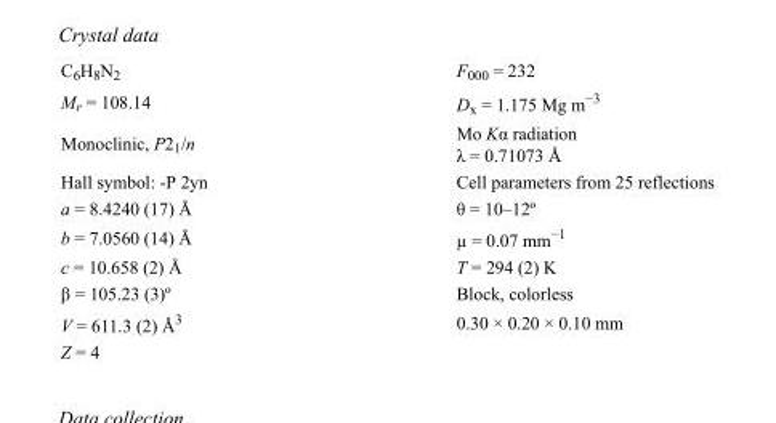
<table><tbody><tr><td>C<sub>6</sub>H<sub>8</sub>N<sub>2</sub></td><td>F000 = 232</td></tr><tr><td>M<sub>r</sub> = 108.14</td><td>D<sub>x</sub> = 1.175 Mg m<sup>−3</sup></td></tr><tr><td>Monoclinic, P2<sub>1</sub>/n</td><td>Mo Kα radiation λ = 0.71073 Å</td></tr><tr><td>Hall symbol: -P 2yn</td><td>Cell parameters from 25 reflections</td></tr><tr><td>a = 8.4240 (17) Å</td><td>θ = 10–12º</td></tr><tr><td>b = 7.0560 (14) Å</td><td>µ = 0.07 mm<sup>−1</sup></td></tr><tr><td>c = 10.658 (2) Å</td><td>T = 294 (2) K</td></tr><tr><td>β = 105.23 (3)º</td><td>Block, colorless</td></tr><tr><td>V = 611.3 (2) Å<sup>3</sup></td><td>0.30 × 0.20 × 0.10 mm</td></tr><tr><td>Z = 4</td><td></td></tr></tbody></table>